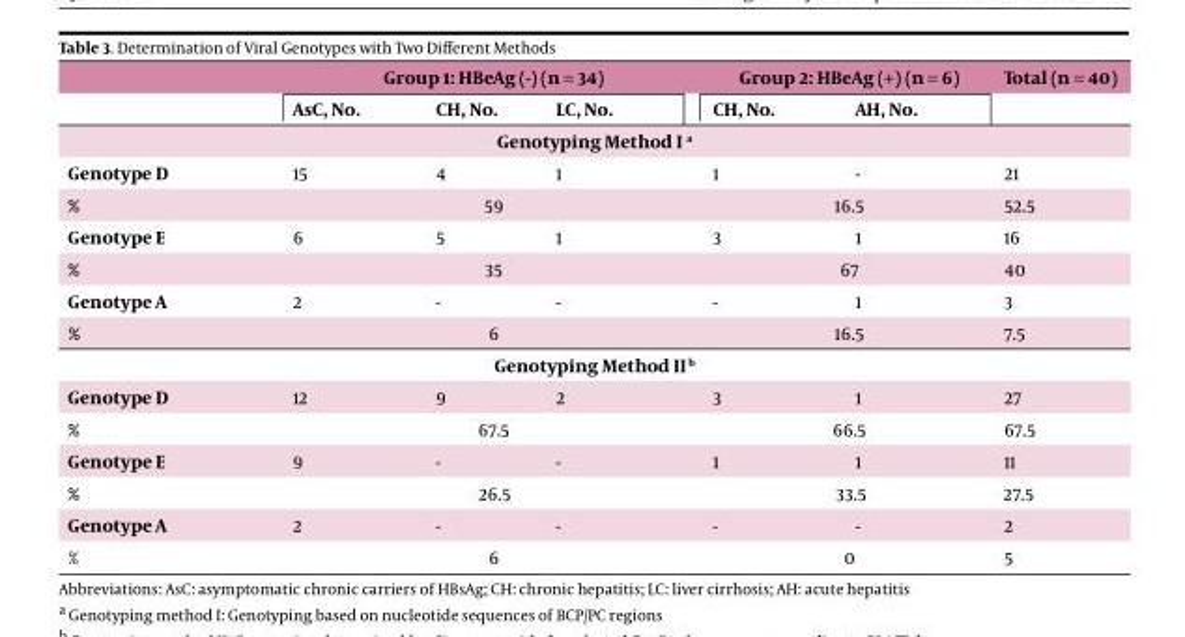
<table><thead><tr><td rowspan="2"></td><td colspan="3">Group 1: HBeAg (-) (n = 34)</td><td colspan="2">Group 2: HBeAg (+) (n = 6)</td><td rowspan="2">Total (n = 40)</td></tr><tr><td>AsC, No.</td><td>CH, No.</td><td>LC, No.</td><td>CH, No.</td><td>AH, No.</td></tr></thead><tbody><tr><td colspan="7">Genotyping Method I a</td></tr><tr><td>Genotype D</td><td>15</td><td>4</td><td>1</td><td>1</td><td>-</td><td>21</td></tr><tr><td>%</td><td colspan="3">59</td><td colspan="2">16.5</td><td>52.5</td></tr><tr><td>Genotype E</td><td>6</td><td>5</td><td>1</td><td>3</td><td>1</td><td>16</td></tr><tr><td>%</td><td colspan="3">35</td><td colspan="2">67</td><td>40</td></tr><tr><td>Genotype A</td><td>2</td><td>-</td><td>-</td><td>-</td><td>1</td><td>3</td></tr><tr><td>%</td><td colspan="3">6</td><td colspan="2">16.5</td><td>7.5</td></tr><tr><td colspan="7">Genotyping Method II b</td></tr><tr><td>Genotype D</td><td>12</td><td>9</td><td>2</td><td>3</td><td>1</td><td>27</td></tr><tr><td>%</td><td colspan="3">67.5</td><td colspan="2">66.5</td><td>67.5</td></tr><tr><td>Genotype E</td><td>9</td><td>-</td><td>-</td><td>1</td><td>1</td><td>11</td></tr><tr><td>%</td><td colspan="3">26.5</td><td colspan="2">33.5</td><td>27.5</td></tr><tr><td>Genotype A</td><td>2</td><td>-</td><td>-</td><td>-</td><td>-</td><td>2</td></tr><tr><td>%</td><td colspan="3">6</td><td colspan="2">0</td><td>5</td></tr></tbody></table>